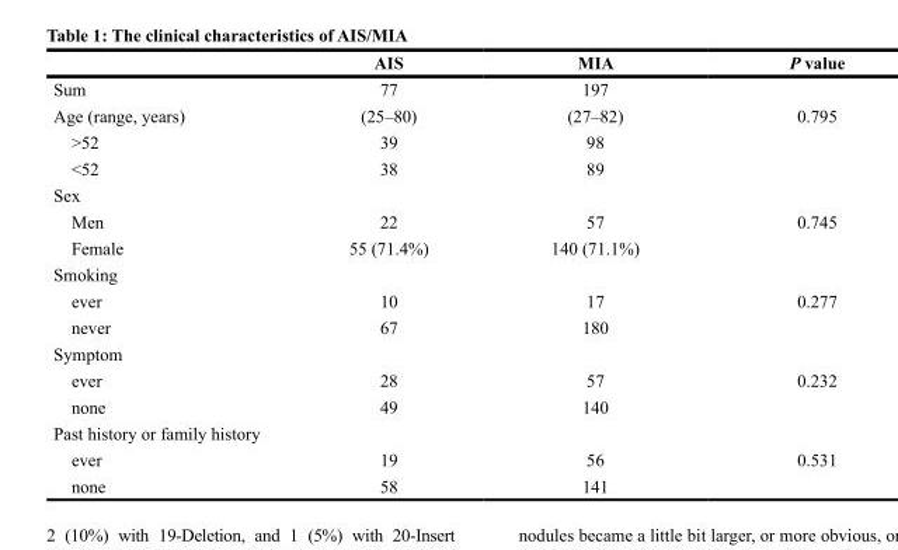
<table><thead><tr><td></td><td>AIS</td><td>MIA</td><td>P value</td></tr></thead><tbody><tr><td>Sum</td><td>77</td><td>197</td><td></td></tr><tr><td>Age (range, years)</td><td>(25–80)</td><td>(27–82)</td><td>0.795</td></tr><tr><td>&gt;52</td><td>39</td><td>98</td><td></td></tr><tr><td>&lt;52</td><td>38</td><td>89</td><td></td></tr><tr><td colspan="4">Sex</td></tr><tr><td>Men</td><td>22</td><td>57</td><td>0.745</td></tr><tr><td>Female</td><td>55 (71.4%)</td><td>140 (71.1%)</td><td></td></tr><tr><td colspan="4">Smoking</td></tr><tr><td>ever</td><td>10</td><td>17</td><td>0.277</td></tr><tr><td>never</td><td>67</td><td>180</td><td></td></tr><tr><td colspan="4">Symptom</td></tr><tr><td>ever</td><td>28</td><td>57</td><td>0.232</td></tr><tr><td>none</td><td>49</td><td>140</td><td></td></tr><tr><td colspan="4">Past history or family history</td></tr><tr><td>ever</td><td>19</td><td>56</td><td>0.531</td></tr><tr><td>none</td><td>58</td><td>141</td><td></td></tr></tbody></table>